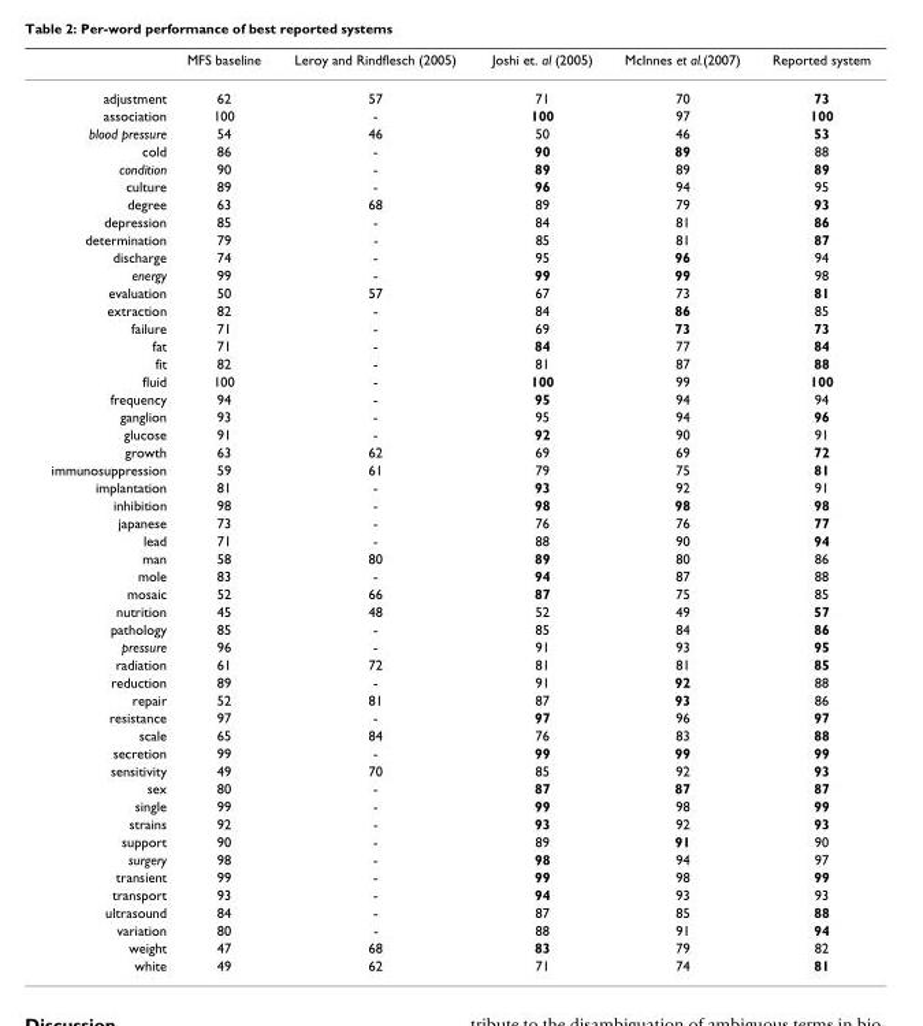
<table><thead><tr><td></td><td>MFS baseline</td><td>Leroy and Rindflesch (2005)</td><td>Joshi et. al (2005)</td><td>McInnes et al.(2007)</td><td>Reported system</td></tr></thead><tbody><tr><td>adjustment</td><td>62</td><td>57</td><td>71</td><td>70</td><td>73</td></tr><tr><td>association</td><td>100</td><td>-</td><td>100</td><td>97</td><td>100</td></tr><tr><td>blood pressure</td><td>54</td><td>46</td><td>50</td><td>46</td><td>53</td></tr><tr><td>cold</td><td>86</td><td>-</td><td>90</td><td>89</td><td>88</td></tr><tr><td>condition</td><td>90</td><td>-</td><td>89</td><td>89</td><td>89</td></tr><tr><td>culture</td><td>89</td><td>-</td><td>96</td><td>94</td><td>95</td></tr><tr><td>degree</td><td>63</td><td>68</td><td>89</td><td>79</td><td>93</td></tr><tr><td>depression</td><td>85</td><td>-</td><td>84</td><td>81</td><td>86</td></tr><tr><td>determination</td><td>79</td><td>-</td><td>85</td><td>81</td><td>87</td></tr><tr><td>discharge</td><td>74</td><td>-</td><td>95</td><td>96</td><td>94</td></tr><tr><td>energy</td><td>99</td><td>-</td><td>99</td><td>99</td><td>98</td></tr><tr><td>evaluation</td><td>50</td><td>57</td><td>67</td><td>73</td><td>81</td></tr><tr><td>extraction</td><td>82</td><td>-</td><td>84</td><td>86</td><td>85</td></tr><tr><td>failure</td><td>71</td><td>-</td><td>69</td><td>73</td><td>73</td></tr><tr><td>fat</td><td>71</td><td>-</td><td>84</td><td>77</td><td>84</td></tr><tr><td>fit</td><td>82</td><td>-</td><td>81</td><td>87</td><td>88</td></tr><tr><td>fluid</td><td>100</td><td>-</td><td>100</td><td>99</td><td>100</td></tr><tr><td>frequency</td><td>94</td><td>-</td><td>95</td><td>94</td><td>94</td></tr><tr><td>ganglion</td><td>93</td><td>-</td><td>95</td><td>94</td><td>96</td></tr><tr><td>glucose</td><td>91</td><td>-</td><td>92</td><td>90</td><td>91</td></tr><tr><td>growth</td><td>63</td><td>62</td><td>69</td><td>69</td><td>72</td></tr><tr><td>immunosuppression</td><td>59</td><td>61</td><td>79</td><td>75</td><td>81</td></tr><tr><td>implantation</td><td>81</td><td>-</td><td>93</td><td>92</td><td>91</td></tr><tr><td>inhibition</td><td>98</td><td>-</td><td>98</td><td>98</td><td>98</td></tr><tr><td>japanese</td><td>73</td><td>-</td><td>76</td><td>76</td><td>77</td></tr><tr><td>lead</td><td>71</td><td>-</td><td>88</td><td>90</td><td>94</td></tr><tr><td>man</td><td>58</td><td>80</td><td>89</td><td>80</td><td>86</td></tr><tr><td>mole</td><td>83</td><td>-</td><td>94</td><td>87</td><td>88</td></tr><tr><td>mosaic</td><td>52</td><td>66</td><td>87</td><td>75</td><td>85</td></tr><tr><td>nutrition</td><td>45</td><td>48</td><td>52</td><td>49</td><td>57</td></tr><tr><td>pathology</td><td>85</td><td>-</td><td>85</td><td>84</td><td>86</td></tr><tr><td>pressure</td><td>96</td><td>-</td><td>91</td><td>93</td><td>95</td></tr><tr><td>radiation</td><td>61</td><td>72</td><td>81</td><td>81</td><td>85</td></tr><tr><td>reduction</td><td>89</td><td>-</td><td>91</td><td>92</td><td>88</td></tr><tr><td>repair</td><td>52</td><td>81</td><td>87</td><td>93</td><td>86</td></tr><tr><td>resistance</td><td>97</td><td>-</td><td>97</td><td>96</td><td>97</td></tr><tr><td>scale</td><td>65</td><td>84</td><td>76</td><td>83</td><td>88</td></tr><tr><td>secretion</td><td>99</td><td>-</td><td>99</td><td>99</td><td>99</td></tr><tr><td>sensitivity</td><td>49</td><td>70</td><td>85</td><td>92</td><td>93</td></tr><tr><td>sex</td><td>80</td><td>-</td><td>87</td><td>87</td><td>87</td></tr><tr><td>single</td><td>99</td><td>-</td><td>99</td><td>98</td><td>99</td></tr><tr><td>strains</td><td>92</td><td>-</td><td>93</td><td>92</td><td>93</td></tr><tr><td>support</td><td>90</td><td>-</td><td>89</td><td>91</td><td>90</td></tr><tr><td>surgery</td><td>98</td><td>-</td><td>98</td><td>94</td><td>97</td></tr><tr><td>transient</td><td>99</td><td>-</td><td>99</td><td>98</td><td>99</td></tr><tr><td>transport</td><td>93</td><td>-</td><td>94</td><td>93</td><td>93</td></tr><tr><td>ultrasound</td><td>84</td><td>-</td><td>87</td><td>85</td><td>88</td></tr><tr><td>variation</td><td>80</td><td>-</td><td>88</td><td>91</td><td>94</td></tr><tr><td>weight</td><td>47</td><td>68</td><td>83</td><td>79</td><td>82</td></tr><tr><td>white</td><td>49</td><td>62</td><td>71</td><td>74</td><td>81</td></tr></tbody></table>